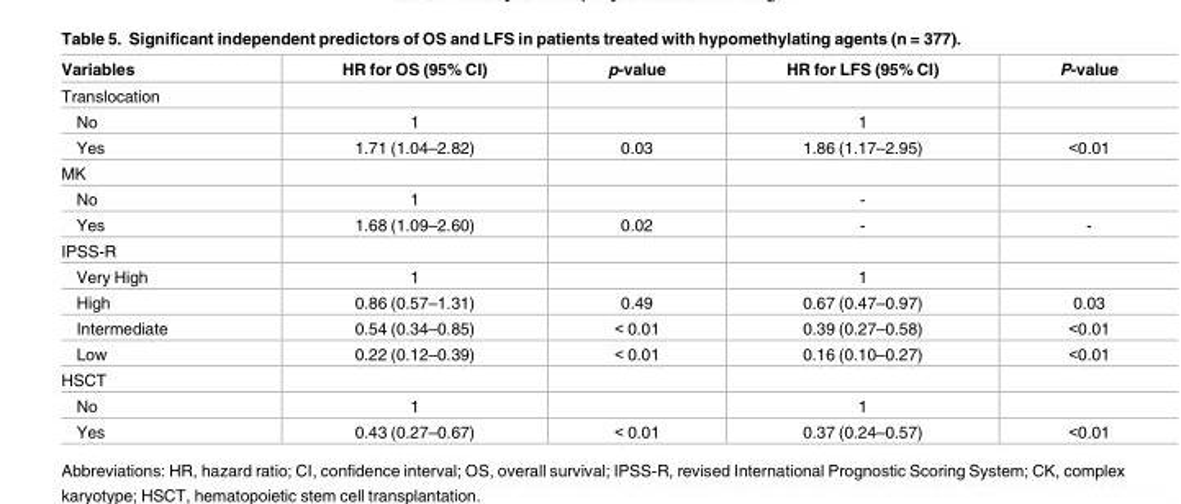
<table><thead><tr><td>Variables</td><td>HR for OS (95% CI)</td><td>p-value</td><td>HR for LFS (95% CI)</td><td>P-value</td></tr></thead><tbody><tr><td colspan="5">Translocation</td></tr><tr><td>No</td><td>1</td><td></td><td>1</td><td></td></tr><tr><td>Yes</td><td>1.71 (1.04–2.82)</td><td>0.03</td><td>1.86 (1.17–2.95)</td><td>&lt;0.01</td></tr><tr><td colspan="5">MK</td></tr><tr><td>No</td><td>1</td><td></td><td>-</td><td></td></tr><tr><td>Yes</td><td>1.68 (1.09–2.60)</td><td>0.02</td><td>-</td><td>-</td></tr><tr><td colspan="5">IPSS-R</td></tr><tr><td>Very High</td><td>1</td><td></td><td>1</td><td></td></tr><tr><td>High</td><td>0.86 (0.57–1.31)</td><td>0.49</td><td>0.67 (0.47–0.97)</td><td>0.03</td></tr><tr><td>Intermediate</td><td>0.54 (0.34–0.85)</td><td>&lt; 0.01</td><td>0.39 (0.27–0.58)</td><td>&lt;0.01</td></tr><tr><td>Low</td><td>0.22 (0.12–0.39)</td><td>&lt; 0.01</td><td>0.16 (0.10–0.27)</td><td>&lt;0.01</td></tr><tr><td colspan="5">HSCT</td></tr><tr><td>No</td><td>1</td><td></td><td>1</td><td></td></tr><tr><td>Yes</td><td>0.43 (0.27–0.67)</td><td>&lt; 0.01</td><td>0.37 (0.24–0.57)</td><td>&lt;0.01</td></tr></tbody></table>